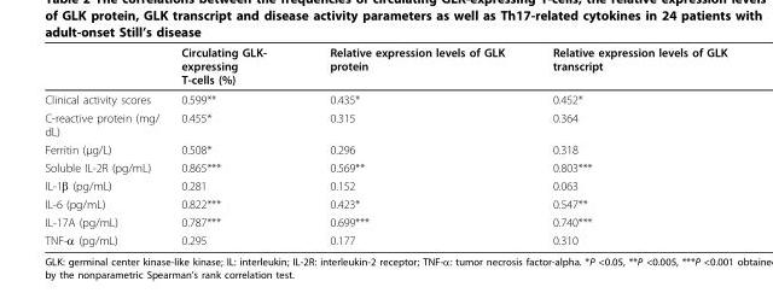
<table><thead><tr><td></td><td>Circulating GLK- expressing T-cells (%)</td><td>Relative expression levels of GLK protein</td><td>Relative expression levels of GLK transcript</td></tr></thead><tbody><tr><td>Clinical activity scores</td><td>0.599**</td><td>0.435*</td><td>0.452*</td></tr><tr><td>C-reactive protein (mg/ dL)</td><td>0.455*</td><td>0.315</td><td>0.364</td></tr><tr><td>Ferritin (μg/L)</td><td>0.508*</td><td>0.296</td><td>0.318</td></tr><tr><td>Soluble IL-2R (pg/mL)</td><td>0.865***</td><td>0.569**</td><td>0.803***</td></tr><tr><td>IL-1β (pg/mL)</td><td>0.281</td><td>0.152</td><td>0.063</td></tr><tr><td>IL-6 (pg/mL)</td><td>0.822***</td><td>0.423*</td><td>0.547**</td></tr><tr><td>IL-17A (pg/mL)</td><td>0.787***</td><td>0.699***</td><td>0.740***</td></tr><tr><td>TNF-α (pg/mL)</td><td>0.295</td><td>0.177</td><td>0.310</td></tr></tbody></table>